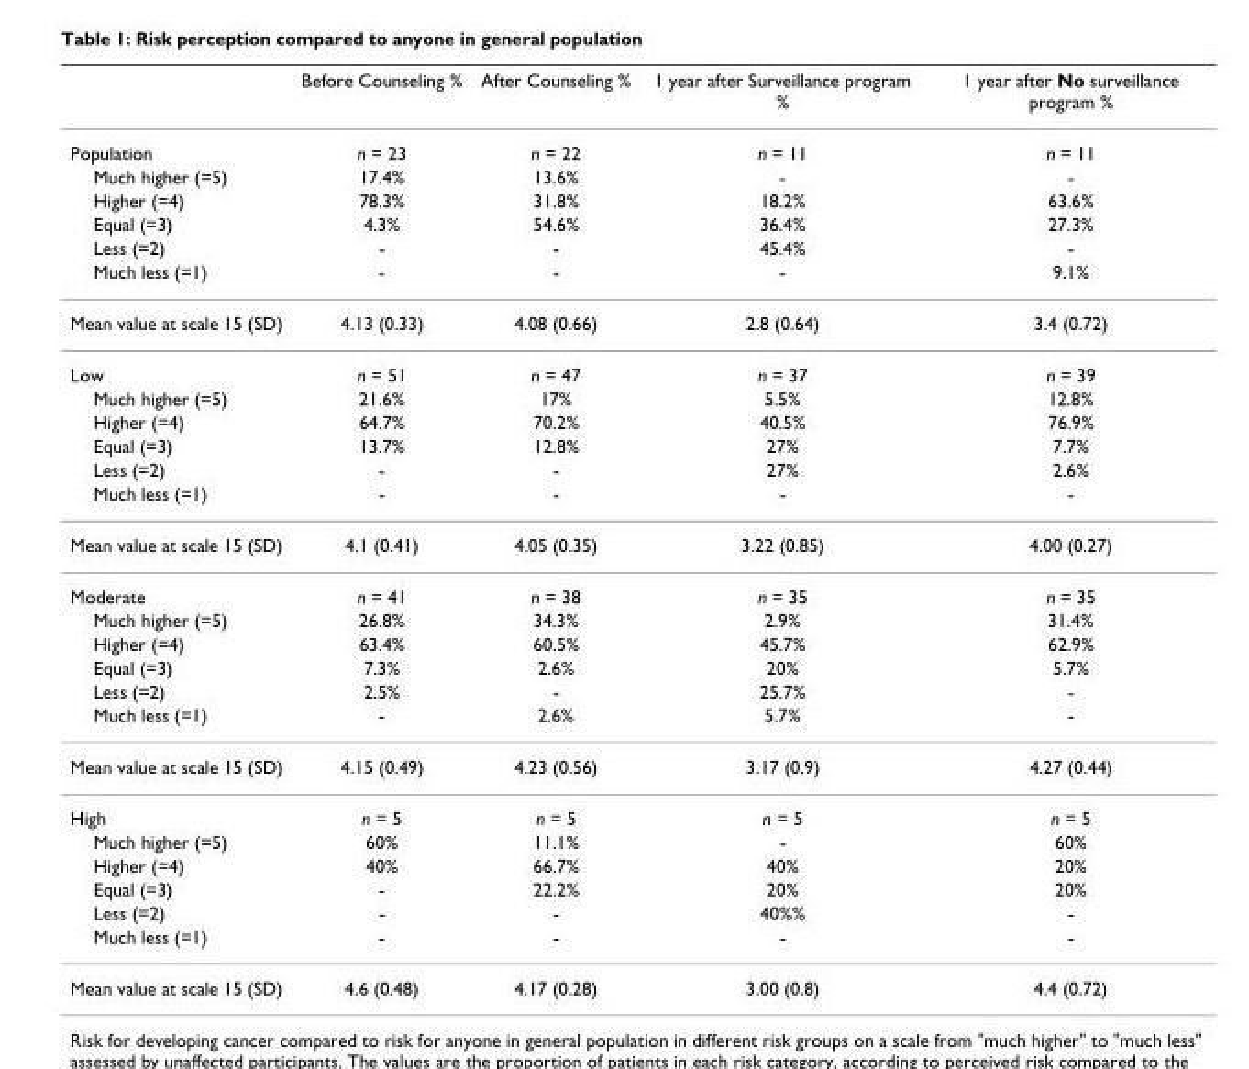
<table><thead><tr><td></td><td>Before Counseling %</td><td>After Counseling %</td><td>1 year after Surveillance program %</td><td>1 year after No surveillance program %</td></tr></thead><tbody><tr><td>Population</td><td>n = 23</td><td>n = 22</td><td>n = 11</td><td>n = 11</td></tr><tr><td>Much higher (=5)</td><td>17.4%</td><td>13.6%</td><td>-</td><td>-</td></tr><tr><td>Higher (=4)</td><td>78.3%</td><td>31.8%</td><td>18.2%</td><td>63.6%</td></tr><tr><td>Equal (=3)</td><td>4.3%</td><td>54.6%</td><td>36.4%</td><td>27.3%</td></tr><tr><td>Less (=2)</td><td>-</td><td>-</td><td>45.4%</td><td>-</td></tr><tr><td>Much less (=1)</td><td>-</td><td>-</td><td>-</td><td>9.1%</td></tr><tr><td>Mean value at scale 15 (SD)</td><td>4.13 (0.33)</td><td>4.08 (0.66)</td><td>2.8 (0.64)</td><td>3.4 (0.72)</td></tr><tr><td>Low</td><td>n = 51</td><td>n = 47</td><td>n = 37</td><td>n = 39</td></tr><tr><td>Much higher (=5)</td><td>21.6%</td><td>17%</td><td>5.5%</td><td>12.8%</td></tr><tr><td>Higher (=4)</td><td>64.7%</td><td>70.2%</td><td>40.5%</td><td>76.9%</td></tr><tr><td>Equal (=3)</td><td>13.7%</td><td>12.8%</td><td>27%</td><td>7.7%</td></tr><tr><td>Less (=2)</td><td>-</td><td>-</td><td>27%</td><td>2.6%</td></tr><tr><td>Much less (=1)</td><td>-</td><td>-</td><td>-</td><td>-</td></tr><tr><td>Mean value at scale 15 (SD)</td><td>4.1 (0.41)</td><td>4.05 (0.35)</td><td>3.22 (0.85)</td><td>4.00 (0.27)</td></tr><tr><td>Moderate</td><td>n = 41</td><td>n = 38</td><td>n = 35</td><td>n = 35</td></tr><tr><td>Much higher (=5)</td><td>26.8%</td><td>34.3%</td><td>2.9%</td><td>31.4%</td></tr><tr><td>Higher (=4)</td><td>63.4%</td><td>60.5%</td><td>45.7%</td><td>62.9%</td></tr><tr><td>Equal (=3)</td><td>7.3%</td><td>2.6%</td><td>20%</td><td>5.7%</td></tr><tr><td>Less (=2)</td><td>2.5%</td><td>-</td><td>25.7%</td><td>-</td></tr><tr><td>Much less (=1)</td><td>-</td><td>2.6%</td><td>5.7%</td><td>-</td></tr><tr><td>Mean value at scale 15 (SD)</td><td>4.15 (0.49)</td><td>4.23 (0.56)</td><td>3.17 (0.9)</td><td>4.27 (0.44)</td></tr><tr><td>High</td><td>n = 5</td><td>n = 5</td><td>n = 5</td><td>n = 5</td></tr><tr><td>Much higher (=5)</td><td>60%</td><td>11.1%</td><td>-</td><td>60%</td></tr><tr><td>Higher (=4)</td><td>40%</td><td>66.7%</td><td>40%</td><td>20%</td></tr><tr><td>Equal (=3)</td><td>-</td><td>22.2%</td><td>20%</td><td>20%</td></tr><tr><td>Less (=2)</td><td>-</td><td>-</td><td>40%%</td><td>-</td></tr><tr><td>Much less (=1)</td><td>-</td><td>-</td><td>-</td><td>-</td></tr><tr><td>Mean value at scale 15 (SD)</td><td>4.6 (0.48)</td><td>4.17 (0.28)</td><td>3.00 (0.8)</td><td>4.4 (0.72)</td></tr></tbody></table>